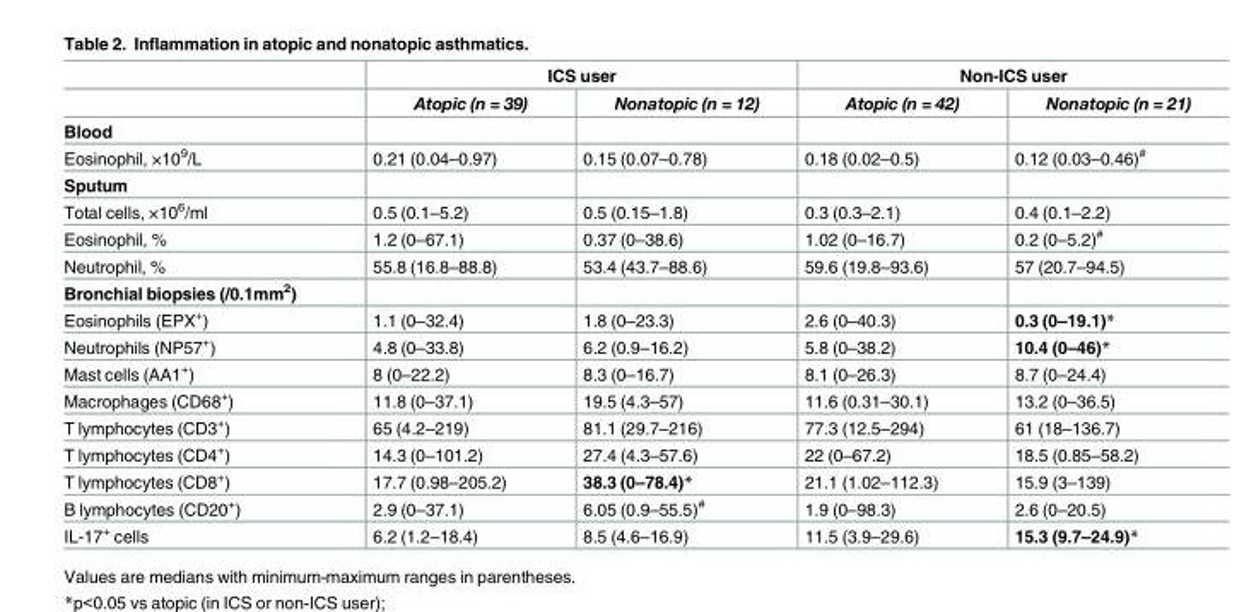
<table><thead><tr><td rowspan="2"></td><td colspan="2">ICS user</td><td colspan="2">Non-ICS user</td></tr><tr><td>Atopic (n = 39)</td><td>Nonatopic (n = 12)</td><td>Atopic (n = 42)</td><td>Nonatopic (n = 21)</td></tr></thead><tbody><tr><td colspan="5">Blood</td></tr><tr><td>Eosinophil, ×10<sup>9</sup>/L</td><td>0.21 (0.04–0.97)</td><td>0.15 (0.07–0.78)</td><td>0.18 (0.02–0.5)</td><td>0.12 (0.03–0.46)<sup>#</sup></td></tr><tr><td colspan="5">Sputum</td></tr><tr><td>Total cells, ×10<sup>6</sup>/ml</td><td>0.5 (0.1–5.2)</td><td>0.5 (0.15–1.8)</td><td>0.3 (0.3–2.1)</td><td>0.4 (0.1–2.2)</td></tr><tr><td>Eosinophil, %</td><td>1.2 (0–67.1)</td><td>0.37 (0–38.6)</td><td>1.02 (0–16.7)</td><td>0.2 (0–5.2)<sup>#</sup></td></tr><tr><td>Neutrophil, %</td><td>55.8 (16.8–88.8)</td><td>53.4 (43.7–88.6)</td><td>59.6 (19.8–93.6)</td><td>57 (20.7–94.5)</td></tr><tr><td colspan="5">Bronchial biopsies (/0.1mm<sup>2</sup>)</td></tr><tr><td>Eosinophils (EPX<sup>+</sup>)</td><td>1.1 (0–32.4)</td><td>1.8 (0–23.3)</td><td>2.6 (0–40.3)</td><td>0.3 (0–19.1)*</td></tr><tr><td>Neutrophils (NP57<sup>+</sup>)</td><td>4.8 (0–33.8)</td><td>6.2 (0.9–16.2)</td><td>5.8 (0–38.2)</td><td>10.4 (0–46)*</td></tr><tr><td>Mast cells (AA1<sup>+</sup>)</td><td>8 (0–22.2)</td><td>8.3 (0–16.7)</td><td>8.1 (0–26.3)</td><td>8.7 (0–24.4)</td></tr><tr><td>Macrophages (CD68<sup>+</sup>)</td><td>11.8 (0–37.1)</td><td>19.5 (4.3–57)</td><td>11.6 (0.31–30.1)</td><td>13.2 (0–36.5)</td></tr><tr><td>T lymphocytes (CD3<sup>+</sup>)</td><td>65 (4.2–219)</td><td>81.1 (29.7–216)</td><td>77.3 (12.5–294)</td><td>61 (18–136.7)</td></tr><tr><td>T lymphocytes (CD4<sup>+</sup>)</td><td>14.3 (0–101.2)</td><td>27.4 (4.3–57.6)</td><td>22 (0–67.2)</td><td>18.5 (0.85–58.2)</td></tr><tr><td>T lymphocytes (CD8<sup>+</sup>)</td><td>17.7 (0.98–205.2)</td><td>38.3 (0–78.4)*</td><td>21.1 (1.02–112.3)</td><td>15.9 (3–139)</td></tr><tr><td>B lymphocytes (CD20<sup>+</sup>)</td><td>2.9 (0–37.1)</td><td>6.05 (0.9–55.5)<sup>#</sup></td><td>1.9 (0–98.3)</td><td>2.6 (0–20.5)</td></tr><tr><td>IL-17<sup>+</sup> cells</td><td>6.2 (1.2–18.4)</td><td>8.5 (4.6–16.9)</td><td>11.5 (3.9–29.6)</td><td>15.3 (9.7–24.9)*</td></tr></tbody></table>